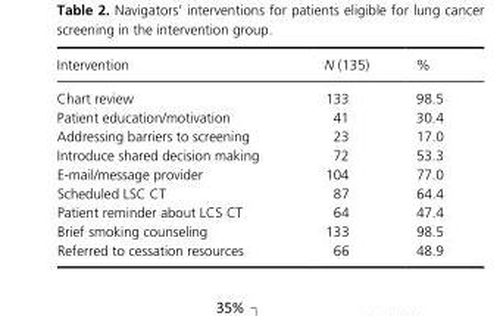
<table><thead><tr><td>Intervention</td><td>N (135)</td><td>%</td></tr></thead><tbody><tr><td>Chart review</td><td>133</td><td>98.5</td></tr><tr><td>Patient education/motivation</td><td>41</td><td>30.4</td></tr><tr><td>Addressing barriers to screening</td><td>23</td><td>17.0</td></tr><tr><td>Introduce shared decision making</td><td>72</td><td>53.3</td></tr><tr><td>E- mail/message provider</td><td>104</td><td>77.0</td></tr><tr><td>Scheduled LSC CT</td><td>87</td><td>64.4</td></tr><tr><td>Patient reminder about LCS CT</td><td>64</td><td>47.4</td></tr><tr><td>Brief smoking counseling</td><td>133</td><td>98.5</td></tr><tr><td>Referred to cessation resources</td><td>66</td><td>48.9</td></tr></tbody></table>